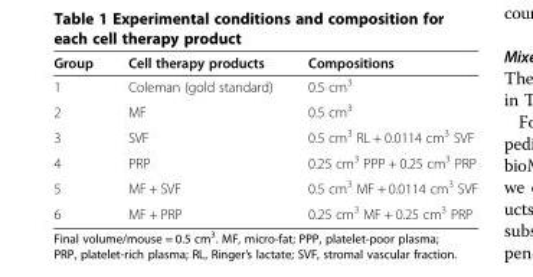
<table><thead><tr><td>Group</td><td>Cell therapy products</td><td>Compositions</td></tr></thead><tbody><tr><td>1</td><td>Coleman (gold standard)</td><td>0.5 cm<sup>3</sup></td></tr><tr><td>2</td><td>MF</td><td>0.5 cm<sup>3</sup></td></tr><tr><td>3</td><td>SVF</td><td>0.5 cm<sup>3</sup> RL + 0.0114 cm<sup>3</sup> SVF</td></tr><tr><td>4</td><td>PRP</td><td>0.25 cm<sup>3</sup> PPP + 0.25 cm<sup>3</sup> PRP</td></tr><tr><td>5</td><td>MF + SVF</td><td>0.5 cm<sup>3</sup> MF + 0.0114 cm<sup>3</sup> SVF</td></tr><tr><td>6</td><td>MF + PRP</td><td>0.25 cm<sup>3</sup> MF + 0.25 cm<sup>3</sup> PRP</td></tr></tbody></table>